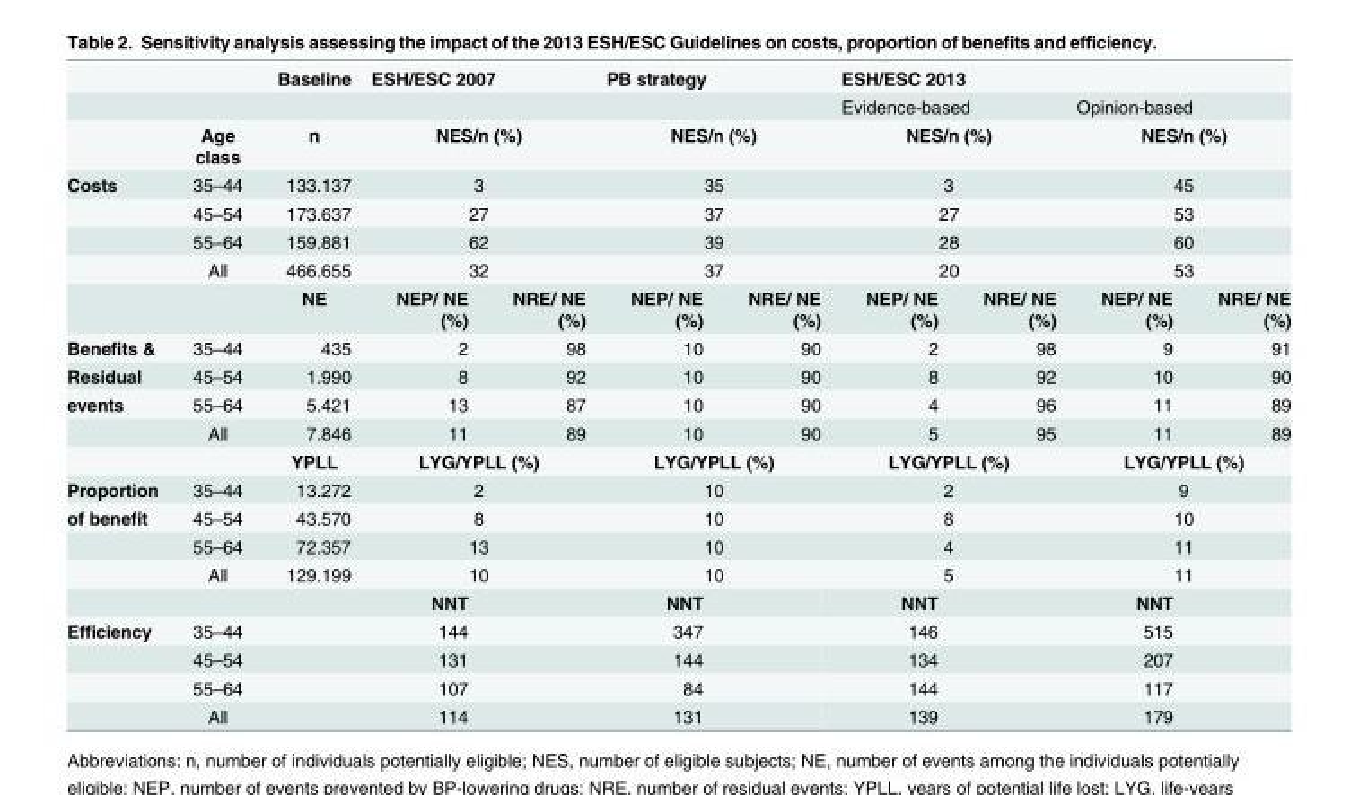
<table><thead><tr><td></td><td></td><td>Baseline</td><td colspan="2">ESH/ESC 2007</td><td colspan="2">PB strategy</td><td colspan="2">ESH/ESC 2013</td><td></td><td></td></tr></thead><tbody><tr><td colspan="2"></td><td></td><td colspan="2"></td><td colspan="2"></td><td colspan="2">Evidence-based</td><td colspan="2">Opinion-based</td></tr><tr><td></td><td>Age class</td><td>n</td><td colspan="2">NES/n (%)</td><td colspan="2">NES/n (%)</td><td colspan="2">NES/n (%)</td><td colspan="2">NES/n (%)</td></tr><tr><td rowspan="5">Costs</td><td>35–44</td><td>133.137</td><td colspan="2">3</td><td colspan="2">35</td><td colspan="2">3</td><td colspan="2">45</td></tr><tr><td>45–54</td><td>173.637</td><td colspan="2">27</td><td colspan="2">37</td><td colspan="2">27</td><td colspan="2">53</td></tr><tr><td>55–64</td><td>159.881</td><td colspan="2">62</td><td colspan="2">39</td><td colspan="2">28</td><td colspan="2">60</td></tr><tr><td>All</td><td>466.655</td><td colspan="2">32</td><td colspan="2">37</td><td colspan="2">20</td><td colspan="2">53</td></tr><tr><td></td><td>NE</td><td>NEP/ NE (%)</td><td>NRE/ NE (%)</td><td>NEP/ NE (%)</td><td>NRE/ NE (%)</td><td>NEP/ NE (%)</td><td>NRE/ NE (%)</td><td>NEP/ NE (%)</td><td>NRE/ NE (%)</td></tr><tr><td>Benefits &amp;</td><td>35–44</td><td>435</td><td>2</td><td>98</td><td>10</td><td>90</td><td>2</td><td>98</td><td>9</td><td>91</td></tr><tr><td>Residual</td><td>45–54</td><td>1.990</td><td>8</td><td>92</td><td>10</td><td>90</td><td>8</td><td>92</td><td>10</td><td>90</td></tr><tr><td rowspan="3">events</td><td>55–64</td><td>5.421</td><td>13</td><td>87</td><td>10</td><td>90</td><td>4</td><td>96</td><td>11</td><td>89</td></tr><tr><td>All</td><td>7.846</td><td>11</td><td>89</td><td>10</td><td>90</td><td>5</td><td>95</td><td>11</td><td>89</td></tr><tr><td></td><td>YPLL</td><td colspan="2">LYG/YPLL (%)</td><td colspan="2">LYG/YPLL (%)</td><td colspan="2">LYG/YPLL (%)</td><td colspan="2">LYG/YPLL (%)</td></tr><tr><td>Proportion</td><td>35–44</td><td>13.272</td><td colspan="2">2</td><td colspan="2">10</td><td colspan="2">2</td><td colspan="2">9</td></tr><tr><td rowspan="4">of benefit</td><td>45–54</td><td>43.570</td><td colspan="2">8</td><td colspan="2">10</td><td colspan="2">8</td><td colspan="2">10</td></tr><tr><td>55–64</td><td>72.357</td><td colspan="2">13</td><td colspan="2">10</td><td colspan="2">4</td><td colspan="2">11</td></tr><tr><td>All</td><td>129.199</td><td colspan="2">10</td><td colspan="2">10</td><td colspan="2">5</td><td colspan="2">11</td></tr><tr><td></td><td></td><td>NNT</td><td></td><td>NNT</td><td></td><td>NNT</td><td></td><td>NNT</td><td></td></tr><tr><td rowspan="4">Efficiency</td><td>35–44</td><td></td><td>144</td><td></td><td>347</td><td></td><td>146</td><td></td><td>515</td><td></td></tr><tr><td>45–54</td><td></td><td>131</td><td></td><td>144</td><td></td><td>134</td><td></td><td>207</td><td></td></tr><tr><td>55–64</td><td></td><td>107</td><td></td><td>84</td><td></td><td>144</td><td></td><td>117</td><td></td></tr><tr><td>All</td><td></td><td>114</td><td></td><td>131</td><td></td><td>139</td><td></td><td>179</td><td></td></tr></tbody></table>